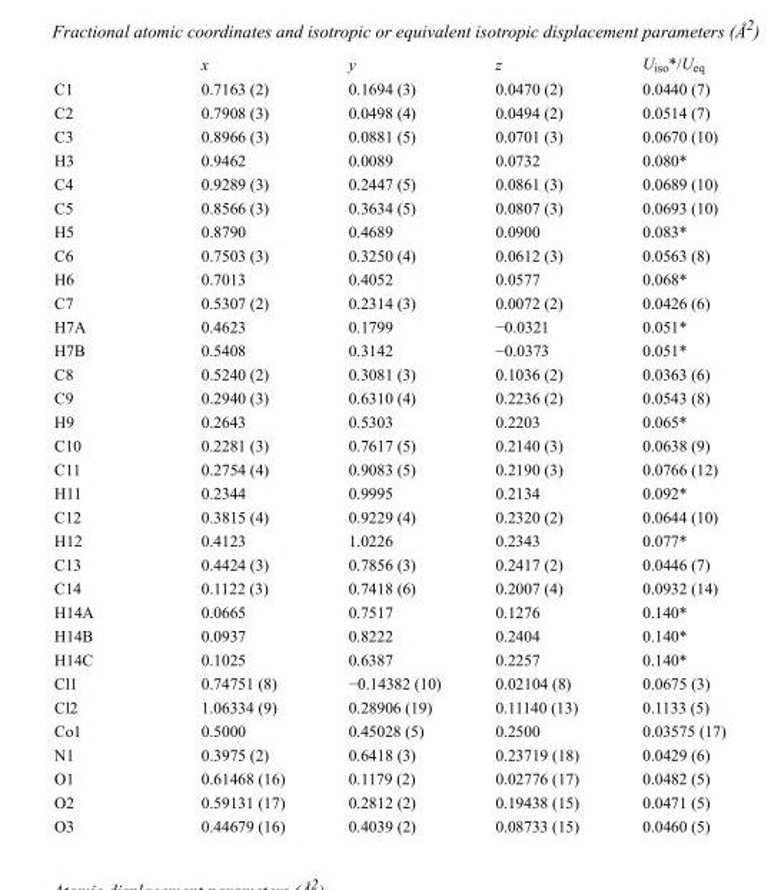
<table><thead><tr><td></td><td>x</td><td>y</td><td>z</td><td>U<sub>iso</sub>*/U<sub>eq</sub></td></tr></thead><tbody><tr><td>C1</td><td>0.7163 (2)</td><td>0.1694 (3)</td><td>0.0470 (2)</td><td>0.0440 (7)</td></tr><tr><td>C2</td><td>0.7908 (3)</td><td>0.0498 (4)</td><td>0.0494 (2)</td><td>0.0514 (7)</td></tr><tr><td>C3</td><td>0.8966 (3)</td><td>0.0881 (5)</td><td>0.0701 (3)</td><td>0.0670 (10)</td></tr><tr><td>H3</td><td>0.9462</td><td>0.0089</td><td>0.0732</td><td>0.080*</td></tr><tr><td>C4</td><td>0.9289 (3)</td><td>0.2447 (5)</td><td>0.0861 (3)</td><td>0.0689 (10)</td></tr><tr><td>C5</td><td>0.8566 (3)</td><td>0.3634 (5)</td><td>0.0807 (3)</td><td>0.0693 (10)</td></tr><tr><td>H5</td><td>0.8790</td><td>0.4689</td><td>0.0900</td><td>0.083*</td></tr><tr><td>C6</td><td>0.7503 (3)</td><td>0.3250 (4)</td><td>0.0612 (3)</td><td>0.0563 (8)</td></tr><tr><td>H6</td><td>0.7013</td><td>0.4052</td><td>0.0577</td><td>0.068*</td></tr><tr><td>C7</td><td>0.5307 (2)</td><td>0.2314 (3)</td><td>0.0072 (2)</td><td>0.0426 (6)</td></tr><tr><td>H7A</td><td>0.4623</td><td>0.1799</td><td>−0.0321</td><td>0.051*</td></tr><tr><td>H7B</td><td>0.5408</td><td>0.3142</td><td>−0.0373</td><td>0.051*</td></tr><tr><td>C8</td><td>0.5240 (2)</td><td>0.3081 (3)</td><td>0.1036 (2)</td><td>0.0363 (6)</td></tr><tr><td>C9</td><td>0.2940 (3)</td><td>0.6310 (4)</td><td>0.2236 (2)</td><td>0.0543 (8)</td></tr><tr><td>H9</td><td>0.2643</td><td>0.5303</td><td>0.2203</td><td>0.065*</td></tr><tr><td>C10</td><td>0.2281 (3)</td><td>0.7617 (5)</td><td>0.2140 (3)</td><td>0.0638 (9)</td></tr><tr><td>C11</td><td>0.2754 (4)</td><td>0.9083 (5)</td><td>0.2190 (3)</td><td>0.0766 (12)</td></tr><tr><td>H11</td><td>0.2344</td><td>0.9995</td><td>0.2134</td><td>0.092*</td></tr><tr><td>C12</td><td>0.3815 (4)</td><td>0.9229 (4)</td><td>0.2320 (2)</td><td>0.0644 (10)</td></tr><tr><td>H12</td><td>0.4123</td><td>1.0226</td><td>0.2343</td><td>0.077*</td></tr><tr><td>C13</td><td>0.4424 (3)</td><td>0.7856 (3)</td><td>0.2417 (2)</td><td>0.0446 (7)</td></tr><tr><td>C14</td><td>0.1122 (3)</td><td>0.7418 (6)</td><td>0.2007 (4)</td><td>0.0932 (14)</td></tr><tr><td>H14A</td><td>0.0665</td><td>0.7517</td><td>0.1276</td><td>0.140*</td></tr><tr><td>H14B</td><td>0.0937</td><td>0.8222</td><td>0.2404</td><td>0.140*</td></tr><tr><td>H14C</td><td>0.1025</td><td>0.6387</td><td>0.2257</td><td>0.140*</td></tr><tr><td>Cl1</td><td>0.74751 (8)</td><td>−0.14382 (10)</td><td>0.02104 (8)</td><td>0.0675 (3)</td></tr><tr><td>Cl2</td><td>1.06334 (9)</td><td>0.28906 (19)</td><td>0.11140 (13)</td><td>0.1133 (5)</td></tr><tr><td>Co1</td><td>0.5000</td><td>0.45028 (5)</td><td>0.2500</td><td>0.03575 (17)</td></tr><tr><td>N1</td><td>0.3975 (2)</td><td>0.6418 (3)</td><td>0.23719 (18)</td><td>0.0429 (6)</td></tr><tr><td>O1</td><td>0.61468 (16)</td><td>0.1179 (2)</td><td>0.02776 (17)</td><td>0.0482 (5)</td></tr><tr><td>O2</td><td>0.59131 (17)</td><td>0.2812 (2)</td><td>0.19438 (15)</td><td>0.0471 (5)</td></tr><tr><td>O3</td><td>0.44679 (16)</td><td>0.4039 (2)</td><td>0.08733 (15)</td><td>0.0460 (5)</td></tr></tbody></table>